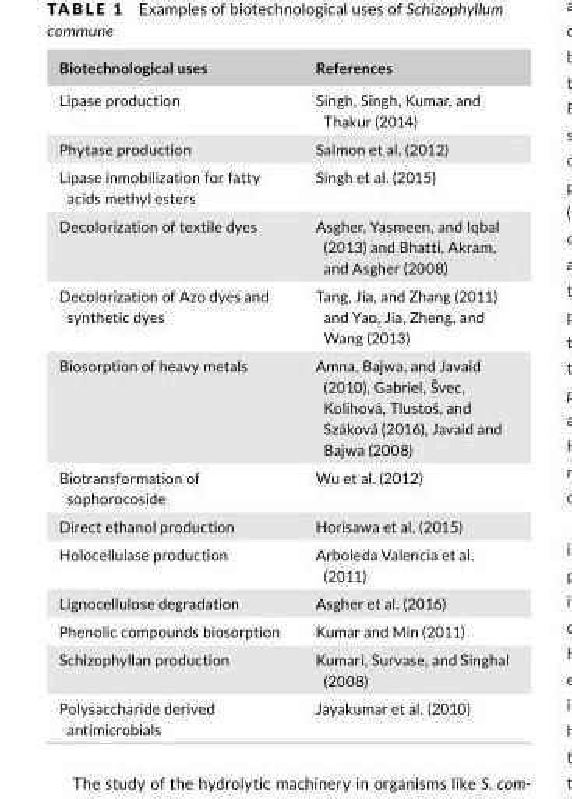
<table><thead><tr><td>Biotechnological uses</td><td>References</td></tr></thead><tbody><tr><td>Lipase production</td><td>Singh, Singh, Kumar, and Thakur (2014)</td></tr><tr><td>Phytase production</td><td>Salmon et al. (2012)</td></tr><tr><td>Lipase inmobilization for fatty acids methyl esters</td><td>Singh et al. (2015)</td></tr><tr><td>Decolorization of textile dyes</td><td>Asgher, Yasmeen, and Iqbal (2013) and Bhatti, Akram, and Asgher (2008)</td></tr><tr><td>Decolorization of Azo dyes and synthetic dyes</td><td>Tang, Jia, and Zhang (2011) and Yao, Jia, Zheng, and Wang (2013)</td></tr><tr><td>Biosorption of heavy metals</td><td>Amna, Bajwa, and Javaid (2010), Gabriel, Švec, Kolihová, Tlustoš, and Száková (2016), Javaid and Bajwa (2008)</td></tr><tr><td>Biotransformation of sophorocoside</td><td>Wu et al. (2012)</td></tr><tr><td>Direct ethanol production</td><td>Horisawa et al. (2015)</td></tr><tr><td>Holocellulase production</td><td>Arboleda Valencia et al. (2011)</td></tr><tr><td>Lignocellulose degradation</td><td>Asgher et al. (2016)</td></tr><tr><td>Phenolic compounds biosorption</td><td>Kumar and Min (2011)</td></tr><tr><td>Schizophyllan production</td><td>Kumari, Survase, and Singhal (2008)</td></tr><tr><td>Polysaccharide derived antimicrobials</td><td>Jayakumar et al. (2010)</td></tr></tbody></table>